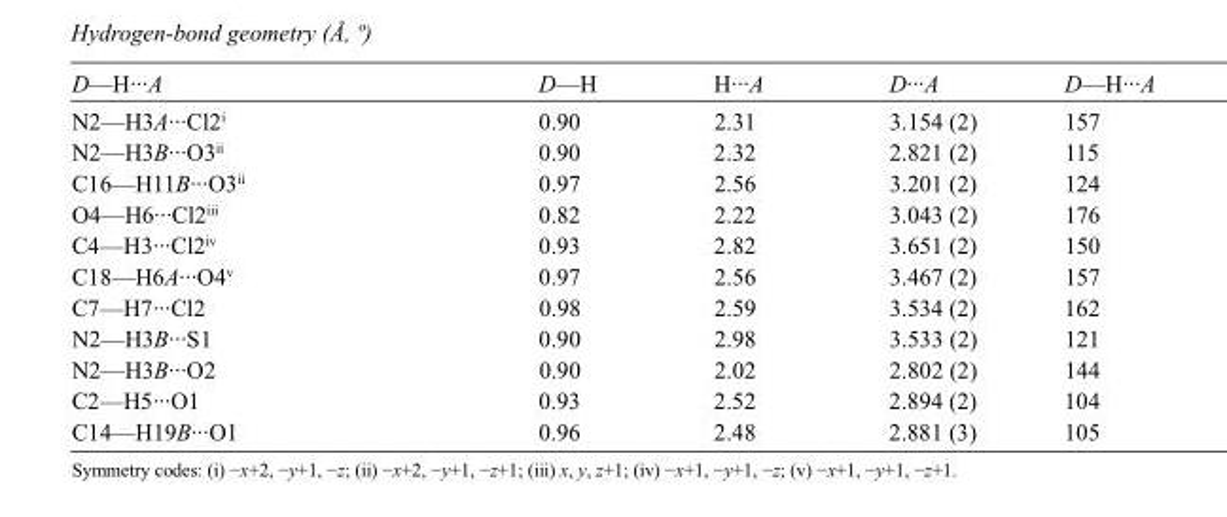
<table><tbody><tr><td>D—H···A</td><td>D—H</td><td>H···A</td><td>D···A</td><td>D—H···A</td></tr><tr><td>N2—H3A···Cl2<sup>i</sup></td><td>0.90</td><td>2.31</td><td>3.154 (2)</td><td>157</td></tr><tr><td>N2—H3B···O3<sup>ii</sup></td><td>0.90</td><td>2.32</td><td>2.821 (2)</td><td>115</td></tr><tr><td>C16—H11B···O3<sup>ii</sup></td><td>0.97</td><td>2.56</td><td>3.201 (2)</td><td>124</td></tr><tr><td>O4—H6···Cl2<sup>iii</sup></td><td>0.82</td><td>2.22</td><td>3.043 (2)</td><td>176</td></tr><tr><td>C4—H3···Cl2<sup>iv</sup></td><td>0.93</td><td>2.82</td><td>3.651 (2)</td><td>150</td></tr><tr><td>C18—H6A···O4<sup>v</sup></td><td>0.97</td><td>2.56</td><td>3.467 (2)</td><td>157</td></tr><tr><td>C7—H7···Cl2</td><td>0.98</td><td>2.59</td><td>3.534 (2)</td><td>162</td></tr><tr><td>N2—H3B···S1</td><td>0.90</td><td>2.98</td><td>3.533 (2)</td><td>121</td></tr><tr><td>N2—H3B···O2</td><td>0.90</td><td>2.02</td><td>2.802 (2)</td><td>144</td></tr><tr><td>C2—H5···O1</td><td>0.93</td><td>2.52</td><td>2.894 (2)</td><td>104</td></tr><tr><td>C14—H19B···O1</td><td>0.96</td><td>2.48</td><td>2.881 (3)</td><td>105</td></tr></tbody></table>